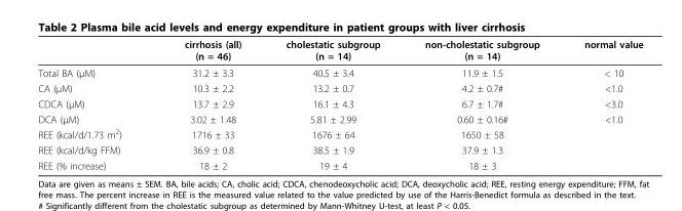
<table><thead><tr><td></td><td>cirrhosis (all) (n = 46)</td><td>cholestatic subgroup (n = 14)</td><td>non-cholestatic subgroup (n = 14)</td><td>normal value</td></tr></thead><tbody><tr><td>Total BA (μM)</td><td>31.2 ± 3.3</td><td>40.5 ± 3.4</td><td>11.9 ± 1.5</td><td>&lt; 10</td></tr><tr><td>CA (μM)</td><td>10.3 ± 2.2</td><td>13.2 ± 0.7</td><td>4.2 ± 0.7#</td><td>&lt;1.0</td></tr><tr><td>CDCA (μM)</td><td>13.7 ± 2.9</td><td>16.1 ± 4.3</td><td>6.7 ± 1.7#</td><td>&lt;3.0</td></tr><tr><td>DCA (μM)</td><td>3.02 ± 1.48</td><td>5.81 ± 2.99</td><td>0.60 ± 0.16#</td><td>&lt;1.0</td></tr><tr><td>REE (kcal/d/1.73 m<sup>2</sup>)</td><td>1716 ± 33</td><td>1676 ± 64</td><td>1650 ± 58</td><td></td></tr><tr><td>REE (kcal/d/kg FFM)</td><td>36.9 ± 0.8</td><td>38.5 ± 1.9</td><td>37.9 ± 1.3</td><td></td></tr><tr><td>REE (% increase)</td><td>18 ± 2</td><td>19 ± 4</td><td>18 ± 3</td><td></td></tr></tbody></table>